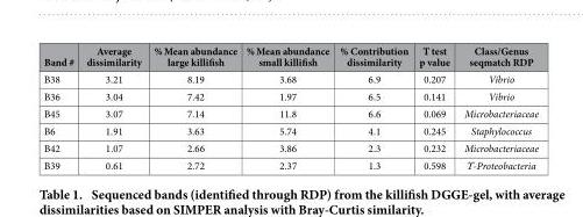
<table><thead><tr><td>Band #</td><td>Average dissimilarity</td><td>% Mean abundance large killifish</td><td>% Mean abundance small killifish</td><td>% Contribution dissimilarity</td><td>T test p value</td><td>Class/Genus seqmatch RDP</td></tr></thead><tbody><tr><td>B38</td><td>3.21</td><td>8.19</td><td>3.68</td><td>6.9</td><td>0.207</td><td>Vibrio</td></tr><tr><td>B36</td><td>3.04</td><td>7.42</td><td>1.97</td><td>6.5</td><td>0.141</td><td>Vibrio</td></tr><tr><td>B45</td><td>3.07</td><td>7.14</td><td>11.8</td><td>6.6</td><td>0.069</td><td>Microbacteriaceae</td></tr><tr><td>B6</td><td>1.91</td><td>3.63</td><td>5.74</td><td>4.1</td><td>0.245</td><td>Staphylococcus</td></tr><tr><td>B42</td><td>1.07</td><td>2.66</td><td>3.86</td><td>2.3</td><td>0.232</td><td>Microbacteriaceae</td></tr><tr><td>B39</td><td>0.61</td><td>2.72</td><td>2.37</td><td>1.3</td><td>0.598</td><td>ϒ-Proteobacteria</td></tr></tbody></table>